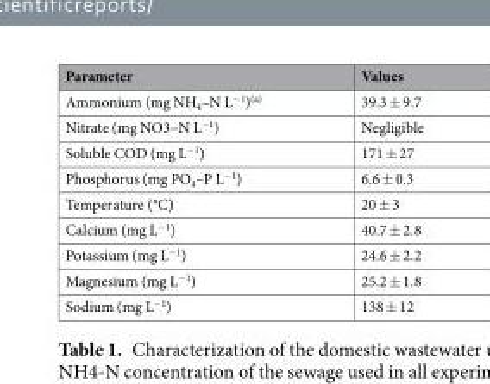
<table><thead><tr><td>Parameter</td><td>Values</td></tr></thead><tbody><tr><td>Ammonium (mg NH<sub>4</sub>–N L<sup>−1</sup>)<sup>(a)</sup></td><td>39.3 ± 9.7</td></tr><tr><td>Nitrate (mg NO3–N L<sup>−1</sup>)</td><td>Negligible</td></tr><tr><td>Soluble COD (mg L<sup>−1</sup>)</td><td>171 ± 27</td></tr><tr><td>Phosphorus (mg PO<sub>4</sub>–P L<sup>−1</sup>)</td><td>6.6 ± 0.3</td></tr><tr><td>Temperature (°C)</td><td>20 ± 3</td></tr><tr><td>Calcium (mg L<sup>−1</sup>)</td><td>40.7 ± 2.8</td></tr><tr><td>Potassium (mg L<sup>−1</sup>)</td><td>24.6 ± 2.2</td></tr><tr><td>Magnesium (mg L<sup>−1</sup>)</td><td>25.2 ± 1.8</td></tr><tr><td>Sodium (mg L<sup>−1</sup>)</td><td>138 ± 12</td></tr></tbody></table>